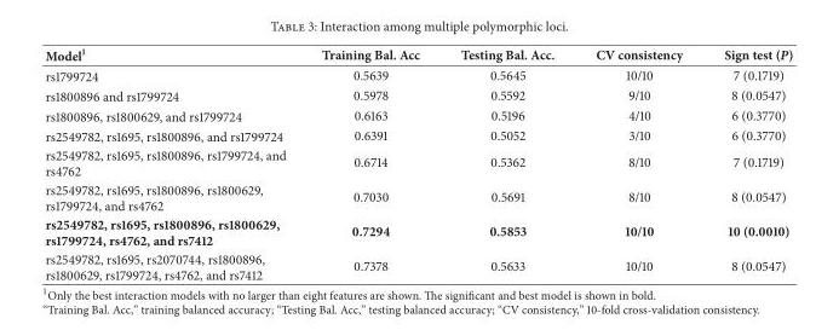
<table><thead><tr><td>Model<sup>1</sup></td><td>Training Bal. Acc</td><td>Testing Bal. Acc.</td><td>CV consistency</td><td>Sign test (P)</td></tr></thead><tbody><tr><td>rs1799724</td><td>0.5639</td><td>0.5645</td><td>10/10</td><td>7 (0.1719)</td></tr><tr><td>rs1800896 and rs1799724</td><td>0.5978</td><td>0.5592</td><td>9/10</td><td>8 (0.0547)</td></tr><tr><td>rs1800896, rs1800629, and rs1799724</td><td>0.6163</td><td>0.5196</td><td>4/10</td><td>6 (0.3770)</td></tr><tr><td>rs2549782, rs1695, rs1800896, and rs1799724</td><td>0.6391</td><td>0.5052</td><td>3/10</td><td>6 (0.3770)</td></tr><tr><td>rs2549782, rs1695, rs1800896, rs1799724, and rs4762</td><td>0.6714</td><td>0.5362</td><td>8/10</td><td>7 (0.1719)</td></tr><tr><td>rs2549782, rs1695, rs1800896, rs1800629, rs1799724, and rs4762</td><td>0.7030</td><td>0.5691</td><td>8/10</td><td>8 (0.0547)</td></tr><tr><td>rs2549782, rs1695, rs1800896, rs1800629, rs1799724, rs4762, and rs7412</td><td>0.7294</td><td>0.5853</td><td>10/10</td><td>10 (0.0010)</td></tr><tr><td>rs2549782, rs1695, rs2070744, rs1800896, rs1800629, rs1799724, rs4762, and rs7412</td><td>0.7378</td><td>0.5633</td><td>10/10</td><td>8 (0.0547)</td></tr></tbody></table>